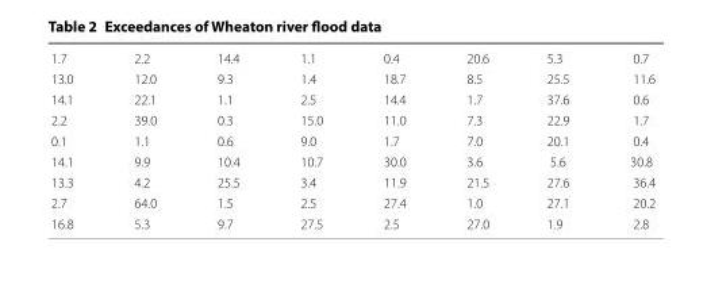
<table><tbody><tr><td>1.7</td><td>2.2</td><td>14.4</td><td>1.1</td><td>0.4</td><td>20.6</td><td>5.3</td><td>0.7</td></tr><tr><td>13.0</td><td>12.0</td><td>9.3</td><td>1.4</td><td>18.7</td><td>8.5</td><td>25.5</td><td>11.6</td></tr><tr><td>14.1</td><td>22.1</td><td>1.1</td><td>2.5</td><td>14.4</td><td>1.7</td><td>37.6</td><td>0.6</td></tr><tr><td>2.2</td><td>39.0</td><td>0.3</td><td>15.0</td><td>11.0</td><td>7.3</td><td>22.9</td><td>1.7</td></tr><tr><td>0.1</td><td>1.1</td><td>0.6</td><td>9.0</td><td>1.7</td><td>7.0</td><td>20.1</td><td>0.4</td></tr><tr><td>14.1</td><td>9.9</td><td>10.4</td><td>10.7</td><td>30.0</td><td>3.6</td><td>5.6</td><td>30.8</td></tr><tr><td>13.3</td><td>4.2</td><td>25.5</td><td>3.4</td><td>11.9</td><td>21.5</td><td>27.6</td><td>36.4</td></tr><tr><td>2.7</td><td>64.0</td><td>1.5</td><td>2.5</td><td>27.4</td><td>1.0</td><td>27.1</td><td>20.2</td></tr><tr><td>16.8</td><td>5.3</td><td>9.7</td><td>27.5</td><td>2.5</td><td>27.0</td><td>1.9</td><td>2.8</td></tr></tbody></table>